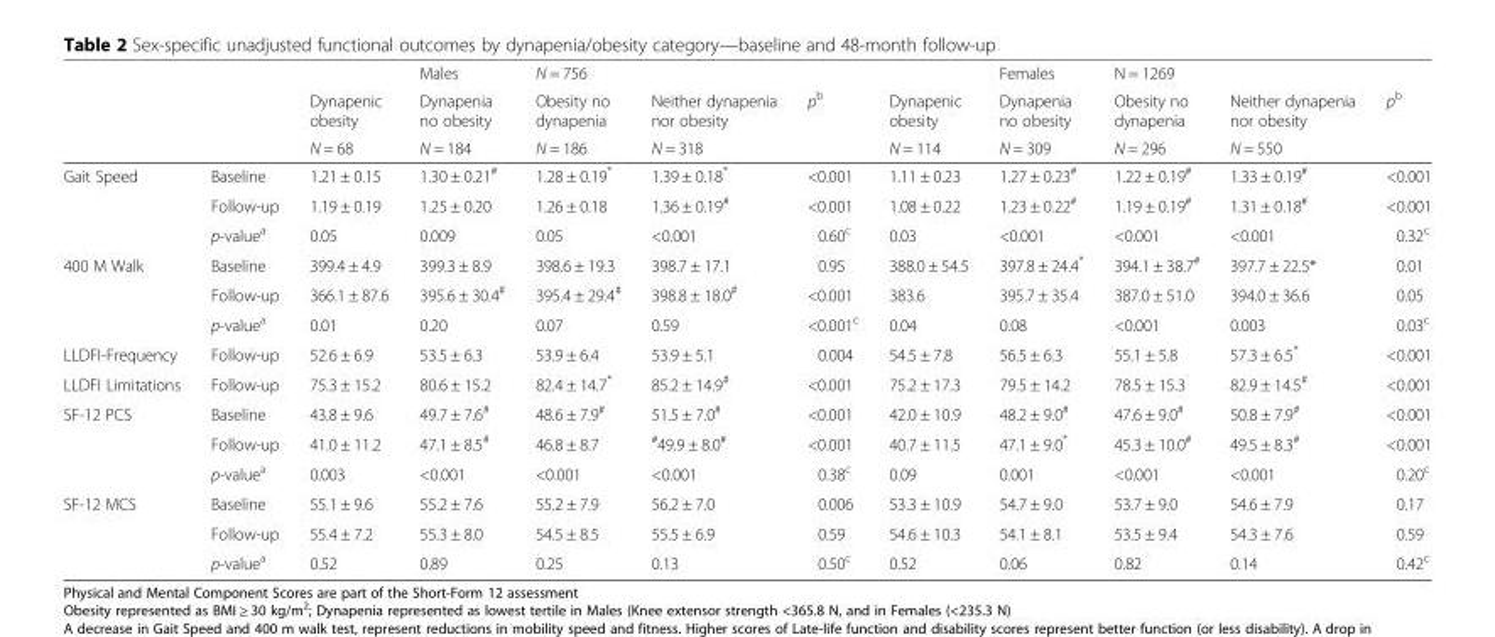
<table><thead><tr><td rowspan="3"></td><td rowspan="3"></td><td rowspan="3">Dynapenic obesity N = 68</td><td rowspan="3">Males Dynapenia no obesity N = 184</td><td rowspan="3">N = 756 Obesity no dynapenia N = 186</td><td rowspan="3">Neither dynapenia nor obesity N = 318</td><td rowspan="3">p<sup>b</sup></td><td rowspan="3">Dynapenic obesity N = 114</td><td rowspan="3">Females Dynapenia no obesity N = 309</td><td rowspan="3">N = 1269 Obesity no dynapenia N = 296</td><td rowspan="3">Neither dynapenia nor obesity N = 550</td><td rowspan="3">p<sup>b</sup></td></tr><tr></tr><tr></tr></thead><tbody><tr><td rowspan="3">Gait Speed</td><td>Baseline</td><td>1.21 ± 0.15</td><td>1.30 ± 0.21<sup>#</sup></td><td>1.28 ± 0.19*</td><td>1.39 ± 0.18*</td><td>&lt;0.001</td><td>1.11 ± 0.23</td><td>1.27 ± 0.23<sup>#</sup></td><td>1.22 ± 0.19<sup>#</sup></td><td>1.33 ± 0.19<sup>#</sup></td><td>&lt;0.001</td></tr><tr><td>Follow-up</td><td>1.19 ± 0.19</td><td>1.25 ± 0.20</td><td>1.26 ± 0.18</td><td>1.36 ± 0.19<sup>#</sup></td><td>&lt;0.001</td><td>1.08 ± 0.22</td><td>1.23 ± 0.22<sup>#</sup></td><td>1.19 ± 0.19<sup>#</sup></td><td>1.31 ± 0.18<sup>#</sup></td><td>&lt;0.001</td></tr><tr><td>p-value<sup>a</sup></td><td>0.05</td><td>0.009</td><td>0.05</td><td>&lt;0.001</td><td>0.60<sup>c</sup></td><td>0.03</td><td>&lt;0.001</td><td>&lt;0.001</td><td>&lt;0.001</td><td>0.32<sup>c</sup></td></tr><tr><td rowspan="3">400 M Walk</td><td>Baseline</td><td>399.4 ± 4.9</td><td>399.3 ± 8.9</td><td>398.6 ± 19.3</td><td>398.7 ± 17.1</td><td>0.95</td><td>388.0 ± 54.5</td><td>397.8 ± 24.4*</td><td>394.1 ± 38.7<sup>#</sup></td><td>397.7 ± 22.5*</td><td>0.01</td></tr><tr><td>Follow-up</td><td>366.1 ± 87.6</td><td>395.6 ± 30.4<sup>#</sup></td><td>395.4 ± 29.4<sup>#</sup></td><td>398.8 ± 18.0<sup>#</sup></td><td>&lt;0.001</td><td>383.6</td><td>395.7 ± 35.4</td><td>387.0 ± 51.0</td><td>394.0 ± 36.6</td><td>0.05</td></tr><tr><td>p-value<sup>a</sup></td><td>0.01</td><td>0.20</td><td>0.07</td><td>0.59</td><td>&lt;0.001<sup>c</sup></td><td>0.04</td><td>0.08</td><td>&lt;0.001</td><td>0.003</td><td>0.03<sup>c</sup></td></tr><tr><td>LLDFI-Frequency</td><td>Follow-up</td><td>52.6 ± 6.9</td><td>53.5 ± 6.3</td><td>53.9 ± 6.4</td><td>53.9 ± 5.1</td><td>0.004</td><td>54.5 ± 7.8</td><td>56.5 ± 6.3</td><td>55.1 ± 5.8</td><td>57.3 ± 6.5*</td><td>&lt;0.001</td></tr><tr><td>LLDFI Limitations</td><td>Follow-up</td><td>75.3 ± 15.2</td><td>80.6 ± 15.2</td><td>82.4 ± 14.7*</td><td>85.2 ± 14.9<sup>#</sup></td><td>&lt;0.001</td><td>75.2 ± 17.3</td><td>79.5 ± 14.2</td><td>78.5 ± 15.3</td><td>82.9 ± 14.5<sup>#</sup></td><td>&lt;0.001</td></tr><tr><td rowspan="3">SF-12 PCS</td><td>Baseline</td><td>43.8 ± 9.6</td><td>49.7 ± 7.6<sup>#</sup></td><td>48.6 ± 7.9<sup>#</sup></td><td>51.5 ± 7.0<sup>#</sup></td><td>&lt;0.001</td><td>42.0 ± 10.9</td><td>48.2 ± 9.0<sup>#</sup></td><td>47.6 ± 9.0<sup>#</sup></td><td>50.8 ± 7.9<sup>#</sup></td><td>&lt;0.001</td></tr><tr><td>Follow-up</td><td>41.0 ± 11.2</td><td>47.1 ± 8.5<sup>#</sup></td><td>46.8 ± 8.7</td><td><sup>#</sup>49.9 ± 8.0<sup>#</sup></td><td>&lt;0.001</td><td>40.7 ± 11.5</td><td>47.1 ± 9.0*</td><td>45.3 ± 10.0<sup>#</sup></td><td>49.5 ± 8.3<sup>#</sup></td><td>&lt;0.001</td></tr><tr><td>p-value<sup>a</sup></td><td>0.003</td><td>&lt;0.001</td><td>&lt;0.001</td><td>&lt;0.001</td><td>0.38<sup>c</sup></td><td>0.09</td><td>0.001</td><td>&lt;0.001</td><td>&lt;0.001</td><td>0.20<sup>c</sup></td></tr><tr><td rowspan="3">SF-12 MCS</td><td>Baseline</td><td>55.1 ± 9.6</td><td>55.2 ± 7.6</td><td>55.2 ± 7.9</td><td>56.2 ± 7.0</td><td>0.006</td><td>53.3 ± 10.9</td><td>54.7 ± 9.0</td><td>53.7 ± 9.0</td><td>54.6 ± 7.9</td><td>0.17</td></tr><tr><td>Follow-up</td><td>55.4 ± 7.2</td><td>55.3 ± 8.0</td><td>54.5 ± 8.5</td><td>55.5 ± 6.9</td><td>0.59</td><td>54.6 ± 10.3</td><td>54.1 ± 8.1</td><td>53.5 ± 9.4</td><td>54.3 ± 7.6</td><td>0.59</td></tr><tr><td>p-value<sup>a</sup></td><td>0.52</td><td>0.89</td><td>0.25</td><td>0.13</td><td>0.50<sup>c</sup></td><td>0.52</td><td>0.06</td><td>0.82</td><td>0.14</td><td>0.42<sup>c</sup></td></tr></tbody></table>